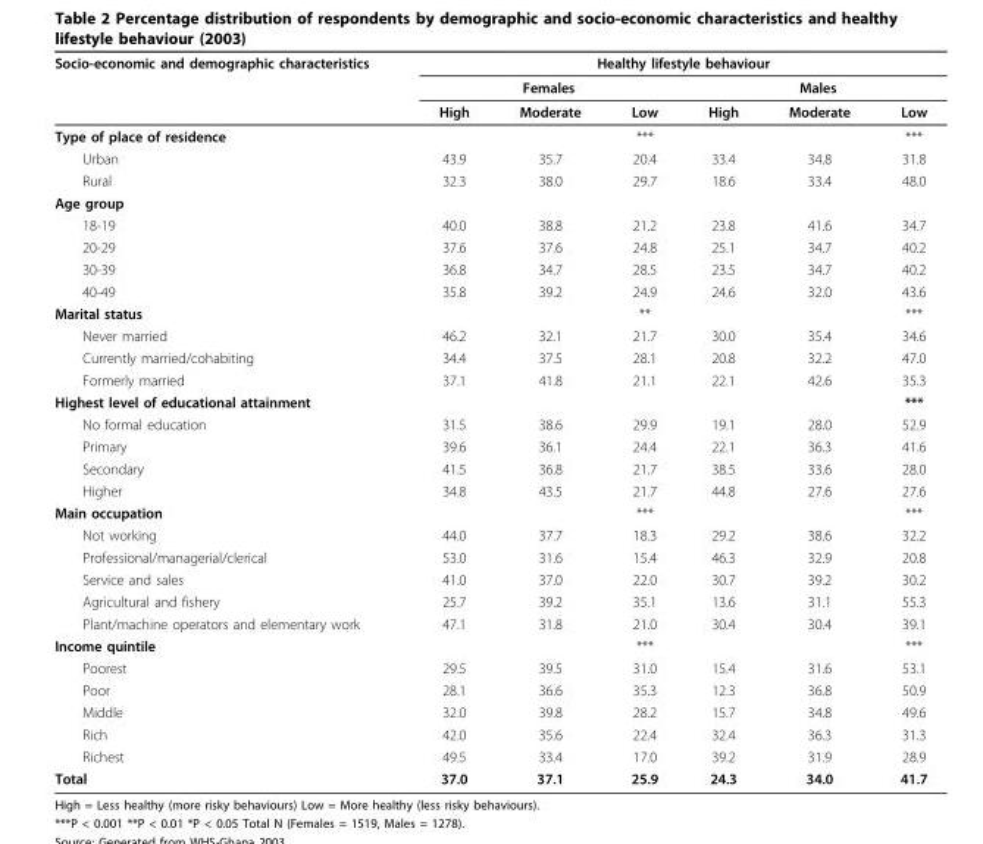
<table><thead><tr><td rowspan="3">Socio-economic and demographic characteristics</td><td colspan="6">Healthy lifestyle behaviour</td></tr><tr><td colspan="3">Females</td><td colspan="3">Males</td></tr><tr><td>High</td><td>Moderate</td><td>Low</td><td>High</td><td>Moderate</td><td>Low</td></tr></thead><tbody><tr><td>Type of place of residence</td><td></td><td></td><td>***</td><td></td><td></td><td>***</td></tr><tr><td>Urban</td><td>43.9</td><td>35.7</td><td>20.4</td><td>33.4</td><td>34.8</td><td>31.8</td></tr><tr><td>Rural</td><td>32.3</td><td>38.0</td><td>29.7</td><td>18.6</td><td>33.4</td><td>48.0</td></tr><tr><td colspan="7">Age group</td></tr><tr><td>18-19</td><td>40.0</td><td>38.8</td><td>21.2</td><td>23.8</td><td>41.6</td><td>34.7</td></tr><tr><td>20-29</td><td>37.6</td><td>37.6</td><td>24.8</td><td>25.1</td><td>34.7</td><td>40.2</td></tr><tr><td>30-39</td><td>36.8</td><td>34.7</td><td>28.5</td><td>23.5</td><td>34.7</td><td>40.2</td></tr><tr><td>40-49</td><td>35.8</td><td>39.2</td><td>24.9</td><td>24.6</td><td>32.0</td><td>43.6</td></tr><tr><td>Marital status</td><td></td><td></td><td>**</td><td></td><td></td><td>***</td></tr><tr><td>Never married</td><td>46.2</td><td>32.1</td><td>21.7</td><td>30.0</td><td>35.4</td><td>34.6</td></tr><tr><td>Currently married/cohabiting</td><td>34.4</td><td>37.5</td><td>28.1</td><td>20.8</td><td>32.2</td><td>47.0</td></tr><tr><td>Formerly married</td><td>37.1</td><td>41.8</td><td>21.1</td><td>22.1</td><td>42.6</td><td>35.3</td></tr><tr><td>Highest level of educational attainment</td><td></td><td></td><td></td><td></td><td></td><td>***</td></tr><tr><td>No formal education</td><td>31.5</td><td>38.6</td><td>29.9</td><td>19.1</td><td>28.0</td><td>52.9</td></tr><tr><td>Primary</td><td>39.6</td><td>36.1</td><td>24.4</td><td>22.1</td><td>36.3</td><td>41.6</td></tr><tr><td>Secondary</td><td>41.5</td><td>36.8</td><td>21.7</td><td>38.5</td><td>33.6</td><td>28.0</td></tr><tr><td>Higher</td><td>34.8</td><td>43.5</td><td>21.7</td><td>44.8</td><td>27.6</td><td>27.6</td></tr><tr><td>Main occupation</td><td></td><td></td><td>***</td><td></td><td></td><td>***</td></tr><tr><td>Not working</td><td>44.0</td><td>37.7</td><td>18.3</td><td>29.2</td><td>38.6</td><td>32.2</td></tr><tr><td>Professional/managerial/clerical</td><td>53.0</td><td>31.6</td><td>15.4</td><td>46.3</td><td>32.9</td><td>20.8</td></tr><tr><td>Service and sales</td><td>41.0</td><td>37.0</td><td>22.0</td><td>30.7</td><td>39.2</td><td>30.2</td></tr><tr><td>Agricultural and fishery</td><td>25.7</td><td>39.2</td><td>35.1</td><td>13.6</td><td>31.1</td><td>55.3</td></tr><tr><td>Plant/machine operators and elementary work</td><td>47.1</td><td>31.8</td><td>21.0</td><td>30.4</td><td>30.4</td><td>39.1</td></tr><tr><td>Income quintile</td><td></td><td></td><td>***</td><td></td><td></td><td>***</td></tr><tr><td>Poorest</td><td>29.5</td><td>39.5</td><td>31.0</td><td>15.4</td><td>31.6</td><td>53.1</td></tr><tr><td>Poor</td><td>28.1</td><td>36.6</td><td>35.3</td><td>12.3</td><td>36.8</td><td>50.9</td></tr><tr><td>Middle</td><td>32.0</td><td>39.8</td><td>28.2</td><td>15.7</td><td>34.8</td><td>49.6</td></tr><tr><td>Rich</td><td>42.0</td><td>35.6</td><td>22.4</td><td>32.4</td><td>36.3</td><td>31.3</td></tr><tr><td>Richest</td><td>49.5</td><td>33.4</td><td>17.0</td><td>39.2</td><td>31.9</td><td>28.9</td></tr><tr><td>Total</td><td>37.0</td><td>37.1</td><td>25.9</td><td>24.3</td><td>34.0</td><td>41.7</td></tr></tbody></table>